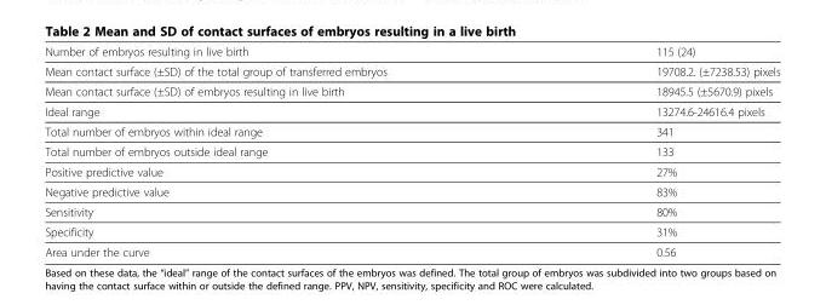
<table><tbody><tr><td>Number of embryos resulting in live birth</td><td>115 (24)</td></tr><tr><td>Mean contact surface (±SD) of the total group of transferred embryos</td><td>19708.2. (±7238.53) pixels</td></tr><tr><td>Mean contact surface (±SD) of embryos resulting in live birth</td><td>18945.5 (±5670.9) pixels</td></tr><tr><td>Ideal range</td><td>13274.6-24616.4 pixels</td></tr><tr><td>Total number of embryos within ideal range</td><td>341</td></tr><tr><td>Total number of embryos outside ideal range</td><td>133</td></tr><tr><td>Positive predictive value</td><td>27%</td></tr><tr><td>Negative predictive value</td><td>83%</td></tr><tr><td>Sensitivity</td><td>80%</td></tr><tr><td>Specificity</td><td>31%</td></tr><tr><td>Area under the curve</td><td>0.56</td></tr></tbody></table>